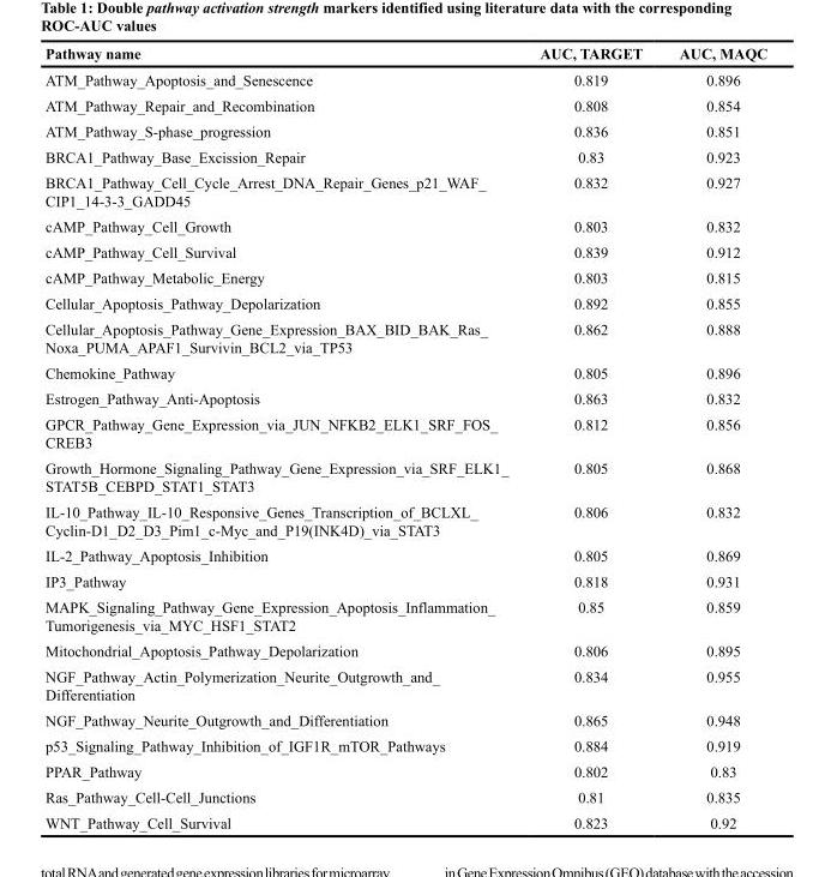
<table><thead><tr><td>Pathway name</td><td>AUC, TARGET</td><td>AUC, MAQC</td></tr></thead><tbody><tr><td>ATM_Pathway_Apoptosis_and_Senescence</td><td>0.819</td><td>0.896</td></tr><tr><td>ATM_Pathway_Repair_and_Recombination</td><td>0.808</td><td>0.854</td></tr><tr><td>ATM_Pathway_S-phase_progression</td><td>0.836</td><td>0.851</td></tr><tr><td>BRCA1_Pathway_Base_Excission_Repair</td><td>0.83</td><td>0.923</td></tr><tr><td>BRCA1_Pathway_Cell_Cycle_Arrest_DNA_Repair_Genes_p21_WAF_ CIP1_14-3-3_GADD45</td><td>0.832</td><td>0.927</td></tr><tr><td>cAMP_Pathway_Cell_Growth</td><td>0.803</td><td>0.832</td></tr><tr><td>cAMP_Pathway_Cell_Survival</td><td>0.839</td><td>0.912</td></tr><tr><td>cAMP_Pathway_Metabolic_Energy</td><td>0.803</td><td>0.815</td></tr><tr><td>Cellular_Apoptosis_Pathway_Depolarization</td><td>0.892</td><td>0.855</td></tr><tr><td>Cellular_Apoptosis_Pathway_Gene_Expression_BAX_BID_BAK_Ras_ Noxa_PUMA_APAF1_Survivin_BCL2_via_TP53</td><td>0.862</td><td>0.888</td></tr><tr><td>Chemokine_Pathway</td><td>0.805</td><td>0.896</td></tr><tr><td>Estrogen_Pathway_Anti-Apoptosis</td><td>0.863</td><td>0.832</td></tr><tr><td>GPCR_Pathway_Gene_Expression_via_JUN_NFKB2_ELK1_SRF_FOS_ CREB3</td><td>0.812</td><td>0.856</td></tr><tr><td>Growth_Hormone_Signaling_Pathway_Gene_Expression_via_SRF_ELK1_ STAT5B_CEBPD_STAT1_STAT3</td><td>0.805</td><td>0.868</td></tr><tr><td>IL-10_Pathway_IL-10_Responsive_Genes_Transcription_of_BCLXL_ Cyclin-D1_D2_D3_Pim1_c-Myc_and_P19(INK4D)_via_STAT3</td><td>0.806</td><td>0.832</td></tr><tr><td>IL-2_Pathway_Apoptosis_Inhibition</td><td>0.805</td><td>0.869</td></tr><tr><td>IP3_Pathway</td><td>0.818</td><td>0.931</td></tr><tr><td>MAPK_Signaling_Pathway_Gene_Expression_Apoptosis_Inflammation_ Tumorigenesis_via_MYC_HSF1_STAT2</td><td>0.85</td><td>0.859</td></tr><tr><td>Mitochondrial_Apoptosis_Pathway_Depolarization</td><td>0.806</td><td>0.895</td></tr><tr><td>NGF_Pathway_Actin_Polymerization_Neurite_Outgrowth_and_ Differentiation</td><td>0.834</td><td>0.955</td></tr><tr><td>NGF_Pathway_Neurite_Outgrowth_and_Differentiation</td><td>0.865</td><td>0.948</td></tr><tr><td>p53_Signaling_Pathway_Inhibition_of_IGF1R_mTOR_Pathways</td><td>0.884</td><td>0.919</td></tr><tr><td>PPAR_Pathway</td><td>0.802</td><td>0.83</td></tr><tr><td>Ras_Pathway_Cell-Cell_Junctions</td><td>0.81</td><td>0.835</td></tr><tr><td>WNT_Pathway_Cell_Survival</td><td>0.823</td><td>0.92</td></tr></tbody></table>